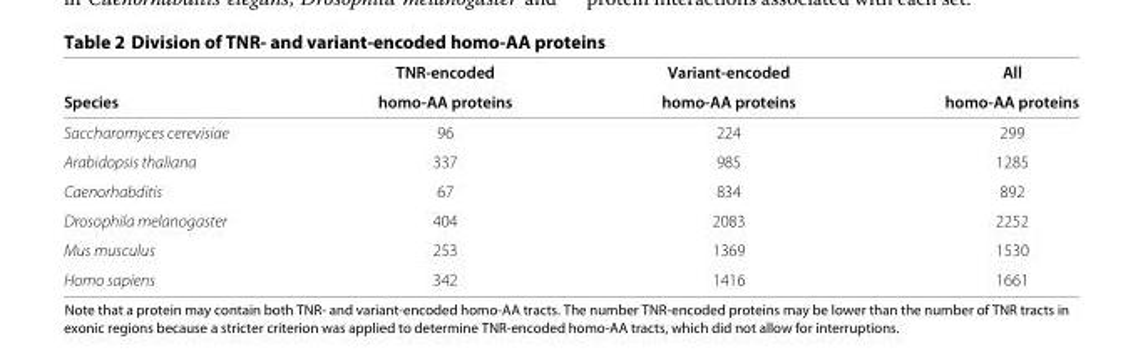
<table><thead><tr><td rowspan="2">Species</td><td rowspan="2">TNR-encoded homo-AA proteins</td><td rowspan="2">Variant-encoded homo-AA proteins</td><td rowspan="2">All homo-AA proteins</td></tr><tr></tr></thead><tbody><tr><td>Saccharomyces cerevisiae</td><td>96</td><td>224</td><td>299</td></tr><tr><td>Arabidopsis thaliana</td><td>337</td><td>985</td><td>1285</td></tr><tr><td>Caenorhabditis</td><td>67</td><td>834</td><td>892</td></tr><tr><td>Drosophila melanogaster</td><td>404</td><td>2083</td><td>2252</td></tr><tr><td>Mus musculus</td><td>253</td><td>1369</td><td>1530</td></tr><tr><td>Homo sapiens</td><td>342</td><td>1416</td><td>1661</td></tr></tbody></table>